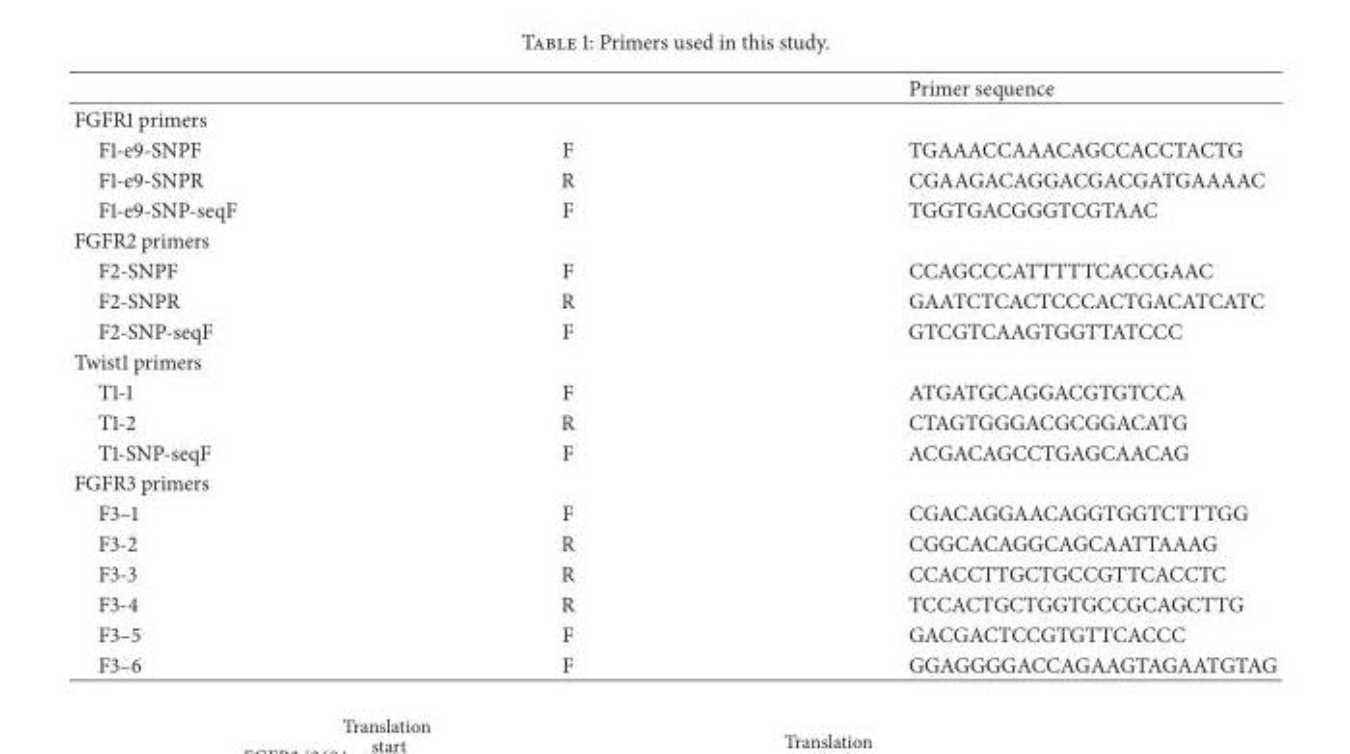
<table><thead><tr><td></td><td></td><td>Primer sequence</td></tr></thead><tbody><tr><td colspan="3">FGFR1 primers</td></tr><tr><td>F1-e9-SNPF</td><td>F</td><td>TGAAACCAAACAGCCACCTACTG</td></tr><tr><td>F1-e9-SNPR</td><td>R</td><td>CGAAGACAGGACGACGATGAAAAC</td></tr><tr><td>F1-e9-SNP-seqF</td><td>F</td><td>TGGTGACGGGTCGTAAC</td></tr><tr><td colspan="3">FGFR2 primers</td></tr><tr><td>F2-SNPF</td><td>F</td><td>CCAGCCCATTTTTCACCGAAC</td></tr><tr><td>F2-SNPR</td><td>R</td><td>GAATCTCACTCCCACTGACATCATC</td></tr><tr><td>F2-SNP-seqF</td><td>F</td><td>GTCGTCAAGTGGTTATCCC</td></tr><tr><td colspan="3">Twist1 primers</td></tr><tr><td>T1-1</td><td>F</td><td>ATGATGCAGGACGTGTCCA</td></tr><tr><td>T1-2</td><td>R</td><td>CTAGTGGGACGCGGACATG</td></tr><tr><td>T1-SNP-seqF</td><td>F</td><td>ACGACAGCCTGAGCAACAG</td></tr><tr><td colspan="3">FGFR3 primers</td></tr><tr><td>F3–1</td><td>F</td><td>CGACAGGAACAGGTGGTCTTTGG</td></tr><tr><td>F3-2</td><td>R</td><td>CGGCACAGGCAGCAATTAAAG</td></tr><tr><td>F3-3</td><td>R</td><td>CCACCTTGCTGCCGTTCACCTC</td></tr><tr><td>F3-4</td><td>R</td><td>TCCACTGCTGGTGCCGCAGCTTG</td></tr><tr><td>F3–5</td><td>F</td><td>GACGACTCCGTGTTCACCC</td></tr><tr><td>F3–6</td><td>F</td><td>GGAGGGGACCAGAAGTAGAATGTAG</td></tr></tbody></table>